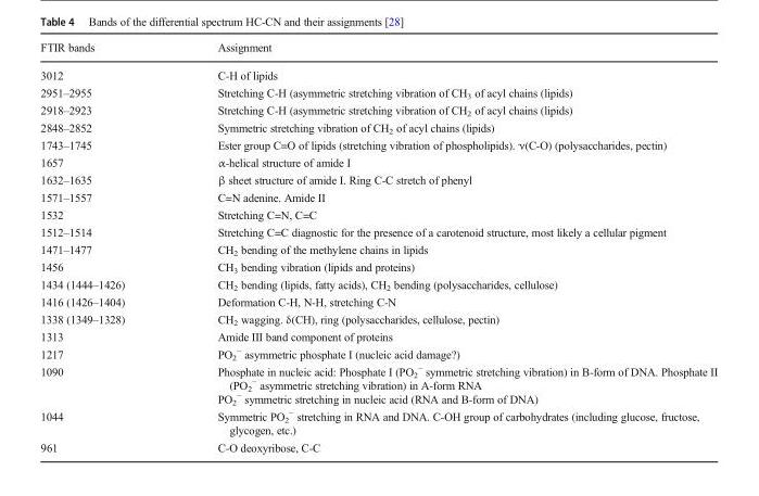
<table><thead><tr><td>FTIR bands</td><td>Assignment</td></tr></thead><tbody><tr><td>3012</td><td>C-H of lipids</td></tr><tr><td>2951–2955</td><td>Stretching C-H (asymmetric stretching vibration of CH<sub>3</sub> of acyl chains (lipids)</td></tr><tr><td>2918–2923</td><td>Stretching C-H (asymmetric stretching vibration of CH<sub>2</sub> of acyl chains (lipids)</td></tr><tr><td>2848–2852</td><td>Symmetric stretching vibration of CH<sub>2</sub> of acyl chains (lipids)</td></tr><tr><td>1743–1745</td><td>Ester group C=O of lipids (stretching vibration of phospholipids). ν(C-O) (polysaccharides, pectin)</td></tr><tr><td>1657</td><td>α-helical structure of amide I</td></tr><tr><td>1632–1635</td><td>β sheet structure of amide I. Ring C-C stretch of phenyl</td></tr><tr><td>1571–1557</td><td>C=N adenine. Amide II</td></tr><tr><td>1532</td><td>Stretching C=N, C=C</td></tr><tr><td>1512–1514</td><td>Stretching C=C diagnostic for the presence of a carotenoid structure, most likely a cellular pigment</td></tr><tr><td>1471–1477</td><td>CH<sub>2</sub> bending of the methylene chains in lipids</td></tr><tr><td>1456</td><td>CH<sub>3</sub> bending vibration (lipids and proteins)</td></tr><tr><td>1434 (1444–1426)</td><td>CH<sub>2</sub> bending (lipids, fatty acids), CH<sub>2</sub> bending (polysaccharides, cellulose)</td></tr><tr><td>1416 (1426–1404)</td><td>Deformation C-H, N-H, stretching C-N</td></tr><tr><td>1338 (1349–1328)</td><td>CH<sub>2</sub> wagging. δ(CH), ring (polysaccharides, cellulose, pectin)</td></tr><tr><td>1313</td><td>Amide III band component of proteins</td></tr><tr><td>1217</td><td>PO<sub>2</sub> <sup>−</sup> asymmetric phosphate I (nucleic acid damage?)</td></tr><tr><td>1090</td><td>Phosphate in nucleic acid: Phosphate I (PO<sub>2</sub> <sup>−</sup> symmetric stretching vibration) in B-form of DNA. Phosphate II (PO<sub>2</sub> <sup>−</sup> asymmetric stretching vibration) in A-form RNA PO<sub>2</sub> <sup>−</sup> symmetric stretching in nucleic acid (RNA and B-form of DNA)</td></tr><tr><td>1044</td><td>Symmetric PO<sub>2</sub> <sup>−</sup> stretching in RNA and DNA. C-OH group of carbohydrates (including glucose, fructose, glycogen, etc.)</td></tr><tr><td>961</td><td>C-O deoxyribose, C-C</td></tr></tbody></table>